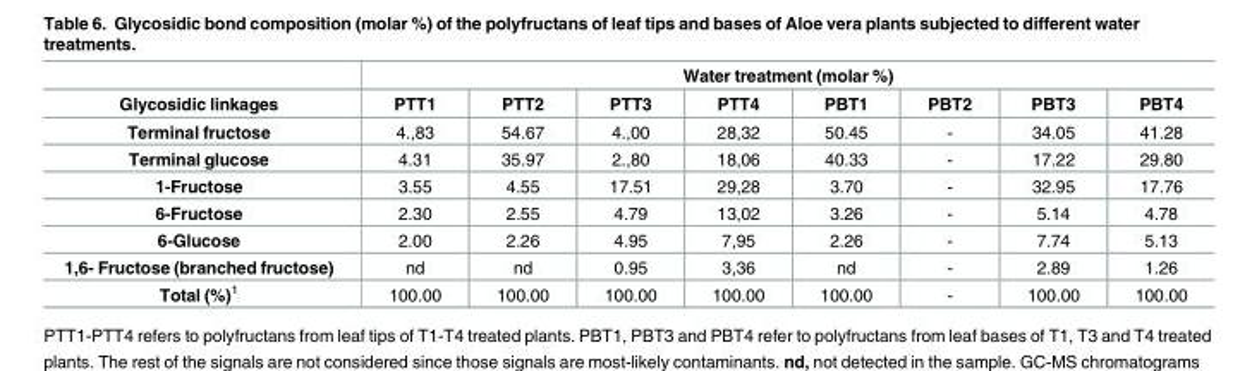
<table><thead><tr><td rowspan="2">Glycosidic linkages</td><td colspan="8">Water treatment (molar %)</td></tr><tr><td>PTT1</td><td>PTT2</td><td>PTT3</td><td>PTT4</td><td>PBT1</td><td>PBT2</td><td>PBT3</td><td>PBT4</td></tr></thead><tbody><tr><td>Terminal fructose</td><td>4.,83</td><td>54.67</td><td>4.,00</td><td>28,32</td><td>50.45</td><td>-</td><td>34.05</td><td>41.28</td></tr><tr><td>Terminal glucose</td><td>4.31</td><td>35.97</td><td>2.,80</td><td>18,06</td><td>40.33</td><td>-</td><td>17.22</td><td>29.80</td></tr><tr><td>1-Fructose</td><td>3.55</td><td>4.55</td><td>17.51</td><td>29,28</td><td>3.70</td><td>-</td><td>32.95</td><td>17.76</td></tr><tr><td>6-Fructose</td><td>2.30</td><td>2.55</td><td>4.79</td><td>13,02</td><td>3.26</td><td>-</td><td>5.14</td><td>4.78</td></tr><tr><td>6-Glucose</td><td>2.00</td><td>2.26</td><td>4.95</td><td>7,95</td><td>2.26</td><td>-</td><td>7.74</td><td>5.13</td></tr><tr><td>1,6- Fructose (branched fructose)</td><td>nd</td><td>nd</td><td>0.95</td><td>3,36</td><td>nd</td><td>-</td><td>2.89</td><td>1.26</td></tr><tr><td>Total (%)<sup>1</sup></td><td>100.00</td><td>100.00</td><td>100.00</td><td>100.00</td><td>100.00</td><td>-</td><td>100.00</td><td>100.00</td></tr></tbody></table>